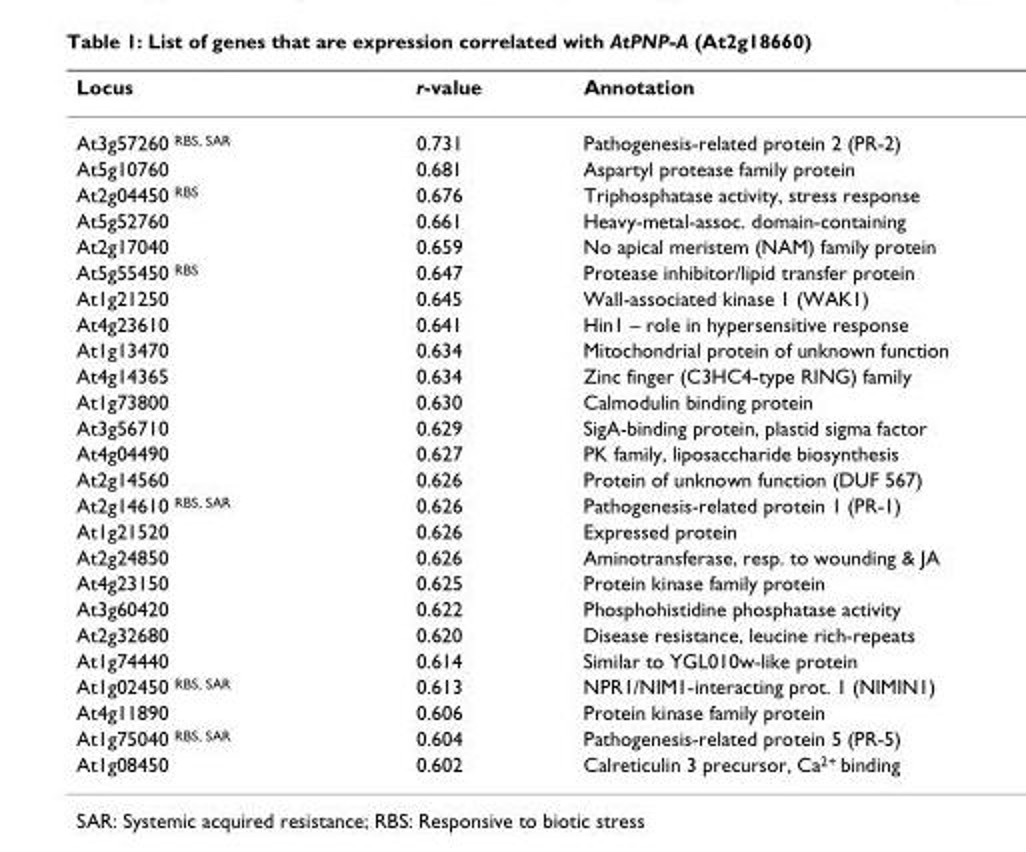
<table><thead><tr><td>Locus</td><td>r-value</td><td>Annotation</td></tr></thead><tbody><tr><td>At3g57260 <sup>RBS, SAR</sup></td><td>0.731</td><td>Pathogenesis-related protein 2 (PR-2)</td></tr><tr><td>At5g10760</td><td>0.681</td><td>Aspartyl protease family protein</td></tr><tr><td>At2g04450 <sup>RBS</sup></td><td>0.676</td><td>Triphosphatase activity, stress response</td></tr><tr><td>At5g52760</td><td>0.661</td><td>Heavy-metal-assoc. domain-containing</td></tr><tr><td>At2g17040</td><td>0.659</td><td>No apical meristem (NAM) family protein</td></tr><tr><td>At5g55450 <sup>RBS</sup></td><td>0.647</td><td>Protease inhibitor/lipid transfer protein</td></tr><tr><td>At1g21250</td><td>0.645</td><td>Wall-associated kinase 1 (WAK1)</td></tr><tr><td>At4g23610</td><td>0.641</td><td>Hin1 – role in hypersensitive response</td></tr><tr><td>At1g13470</td><td>0.634</td><td>Mitochondrial protein of unknown function</td></tr><tr><td>At4g14365</td><td>0.634</td><td>Zinc finger (C3HC4-type RING) family</td></tr><tr><td>At1g73800</td><td>0.630</td><td>Calmodulin binding protein</td></tr><tr><td>At3g56710</td><td>0.629</td><td>SigA-binding protein, plastid sigma factor</td></tr><tr><td>At4g04490</td><td>0.627</td><td>PK family, liposaccharide biosynthesis</td></tr><tr><td>At2g14560</td><td>0.626</td><td>Protein of unknown function (DUF 567)</td></tr><tr><td>At2g14610 <sup>RBS, SAR</sup></td><td>0.626</td><td>Pathogenesis-related protein 1 (PR-1)</td></tr><tr><td>At1g21520</td><td>0.626</td><td>Expressed protein</td></tr><tr><td>At2g24850</td><td>0.626</td><td>Aminotransferase, resp. to wounding &amp; JA</td></tr><tr><td>At4g23150</td><td>0.625</td><td>Protein kinase family protein</td></tr><tr><td>At3g60420</td><td>0.622</td><td>Phosphohistidine phosphatase activity</td></tr><tr><td>At2g32680</td><td>0.620</td><td>Disease resistance, leucine rich-repeats</td></tr><tr><td>At1g74440</td><td>0.614</td><td>Similar to YGL010w-like protein</td></tr><tr><td>At1g02450 <sup>RBS, SAR</sup></td><td>0.613</td><td>NPR1/NIM1-interacting prot. 1 (NIMIN1)</td></tr><tr><td>At4g11890</td><td>0.606</td><td>Protein kinase family protein</td></tr><tr><td>At1g75040 <sup>RBS, SAR</sup></td><td>0.604</td><td>Pathogenesis-related protein 5 (PR-5)</td></tr><tr><td>At1g08450</td><td>0.602</td><td>Calreticulin 3 precursor, Ca<sup>2+</sup> binding</td></tr></tbody></table>